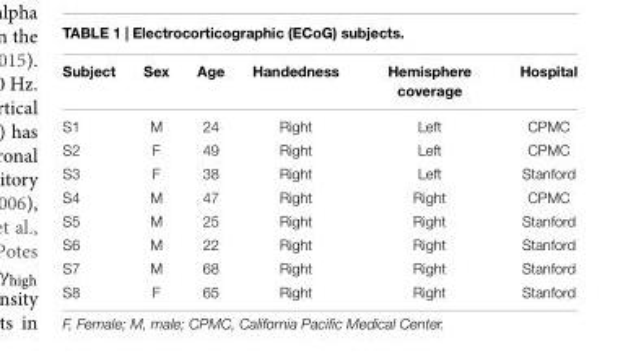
<table><thead><tr><td>Subject</td><td>Sex</td><td>Age</td><td>Handedness</td><td>Hemisphere coverage</td><td>Hospital</td></tr></thead><tbody><tr><td>S1</td><td>M</td><td>24</td><td>Right</td><td>Left</td><td>CPMC</td></tr><tr><td>S2</td><td>F</td><td>49</td><td>Right</td><td>Left</td><td>CPMC</td></tr><tr><td>S3</td><td>F</td><td>38</td><td>Right</td><td>Left</td><td>Stanford</td></tr><tr><td>S4</td><td>M</td><td>47</td><td>Right</td><td>Right</td><td>CPMC</td></tr><tr><td>S5</td><td>M</td><td>25</td><td>Right</td><td>Right</td><td>Stanford</td></tr><tr><td>S6</td><td>M</td><td>22</td><td>Right</td><td>Right</td><td>Stanford</td></tr><tr><td>S7</td><td>M</td><td>68</td><td>Right</td><td>Right</td><td>Stanford</td></tr><tr><td>S8</td><td>F</td><td>65</td><td>Right</td><td>Right</td><td>Stanford</td></tr></tbody></table>